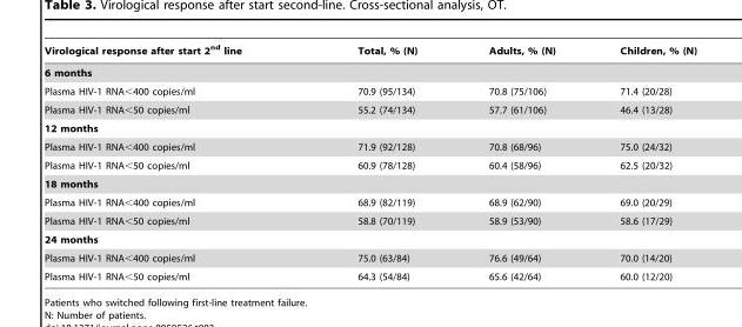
<table><thead><tr><td>Virological response after start 2<sup>nd</sup> line</td><td>Total, % (N)</td><td>Adults, % (N)</td><td>Children, % (N)</td></tr></thead><tbody><tr><td colspan="4">6 months</td></tr><tr><td>Plasma HIV-1 RNA&lt;400 copies/ml</td><td>70.9 (95/134)</td><td>70.8 (75/106)</td><td>71.4 (20/28)</td></tr><tr><td>Plasma HIV-1 RNA&lt;50 copies/ml</td><td>55.2 (74/134)</td><td>57.7 (61/106)</td><td>46.4 (13/28)</td></tr><tr><td colspan="4">12 months</td></tr><tr><td>Plasma HIV-1 RNA&lt;400 copies/ml</td><td>71.9 (92/128)</td><td>70.8 (68/96)</td><td>75.0 (24/32)</td></tr><tr><td>Plasma HIV-1 RNA&lt;50 copies/ml</td><td>60.9 (78/128)</td><td>60.4 (58/96)</td><td>62.5 (20/32)</td></tr><tr><td colspan="4">18 months</td></tr><tr><td>Plasma HIV-1 RNA&lt;400 copies/ml</td><td>68.9 (82/119)</td><td>68.9 (62/90)</td><td>69.0 (20/29)</td></tr><tr><td>Plasma HIV-1 RNA&lt;50 copies/ml</td><td>58.8 (70/119)</td><td>58.9 (53/90)</td><td>58.6 (17/29)</td></tr><tr><td colspan="4">24 months</td></tr><tr><td>Plasma HIV-1 RNA&lt;400 copies/ml</td><td>75.0 (63/84)</td><td>76.6 (49/64)</td><td>70.0 (14/20)</td></tr><tr><td>Plasma HIV-1 RNA&lt;50 copies/ml</td><td>64.3 (54/84)</td><td>65.6 (42/64)</td><td>60.0 (12/20)</td></tr></tbody></table>